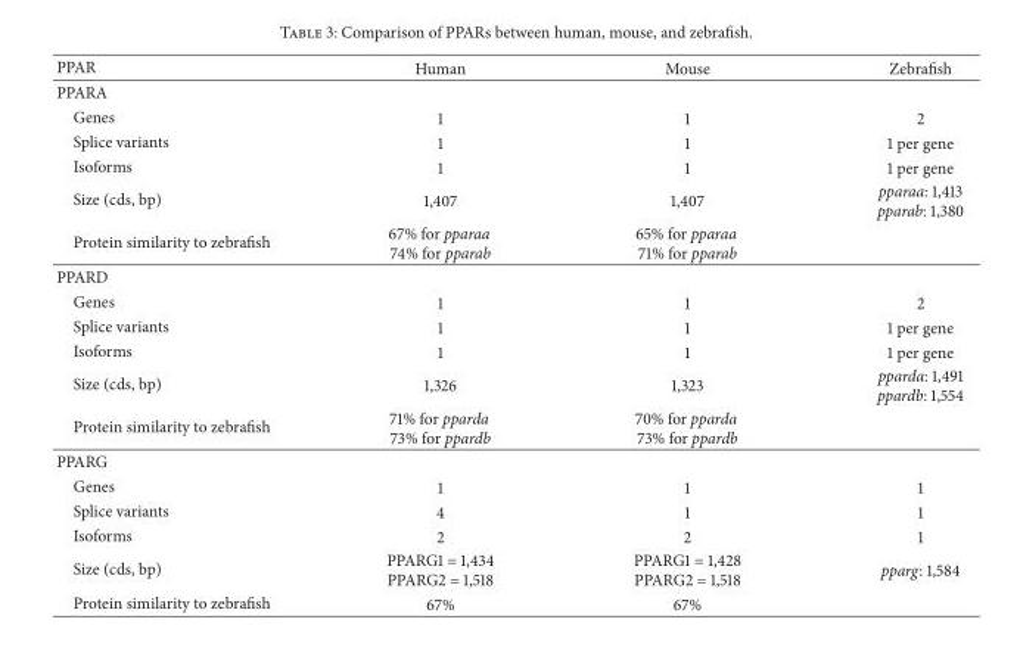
<table><thead><tr><td>PPAR</td><td>Human</td><td>Mouse</td><td>Zebrafish</td></tr></thead><tbody><tr><td colspan="4">PPARA</td></tr><tr><td>Genes</td><td>1</td><td>1</td><td>2</td></tr><tr><td>Splice variants</td><td>1</td><td>1</td><td>1 per gene</td></tr><tr><td>Isoforms</td><td>1</td><td>1</td><td>1 per gene</td></tr><tr><td>Size (cds, bp)</td><td>1,407</td><td>1,407</td><td>pparaa: 1,413 pparab: 1,380</td></tr><tr><td>Protein similarity to zebrafish</td><td>67% for pparaa 74% for pparab</td><td>65% for pparaa 71% for pparab</td><td></td></tr><tr><td colspan="4">PPARD</td></tr><tr><td>Genes</td><td>1</td><td>1</td><td>2</td></tr><tr><td>Splice variants</td><td>1</td><td>1</td><td>1 per gene</td></tr><tr><td>Isoforms</td><td>1</td><td>1</td><td>1 per gene</td></tr><tr><td>Size (cds, bp)</td><td>1,326</td><td>1,323</td><td>pparda: 1,491 ppardb: 1,554</td></tr><tr><td>Protein similarity to zebrafish</td><td>71% for pparda 73% for ppardb</td><td>70% for pparda 73% for ppardb</td><td></td></tr><tr><td colspan="4">PPARG</td></tr><tr><td>Genes</td><td>1</td><td>1</td><td>1</td></tr><tr><td>Splice variants</td><td>4</td><td>1</td><td>1</td></tr><tr><td>Isoforms</td><td>2</td><td>2</td><td>1</td></tr><tr><td>Size (cds, bp)</td><td>PPARG1 = 1,434 PPARG2 = 1,518</td><td>PPARG1 = 1,428 PPARG2 = 1,518</td><td>pparg: 1,584</td></tr><tr><td>Protein similarity to zebrafish</td><td>67%</td><td>67%</td><td></td></tr></tbody></table>